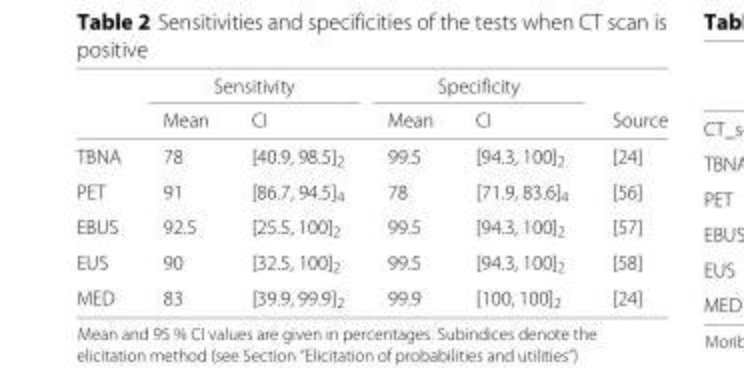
<table><thead><tr><td rowspan="2"></td><td colspan="2">Sensitivity</td><td colspan="2">Specificity</td><td rowspan="2">Source</td></tr><tr><td>Mean</td><td>CI</td><td>Mean</td><td>CI</td></tr></thead><tbody><tr><td>TBNA</td><td>78</td><td>[40.9, 98.5]<sub>2</sub></td><td>99.5</td><td>[94.3, 100]<sub>2</sub></td><td>[24]</td></tr><tr><td>PET</td><td>91</td><td>[86.7, 94.5]<sub>4</sub></td><td>78</td><td>[71.9, 83.6]<sub>4</sub></td><td>[56]</td></tr><tr><td>EBUS</td><td>92.5</td><td>[25.5, 100]<sub>2</sub></td><td>99.5</td><td>[94.3, 100]<sub>2</sub></td><td>[57]</td></tr><tr><td>EUS</td><td>90</td><td>[32.5, 100]<sub>2</sub></td><td>99.5</td><td>[94.3, 100]<sub>2</sub></td><td>[58]</td></tr><tr><td>MED</td><td>83</td><td>[39.9, 99.9]<sub>2</sub></td><td>99.9</td><td>[100, 100]<sub>2</sub></td><td>[24]</td></tr></tbody></table>